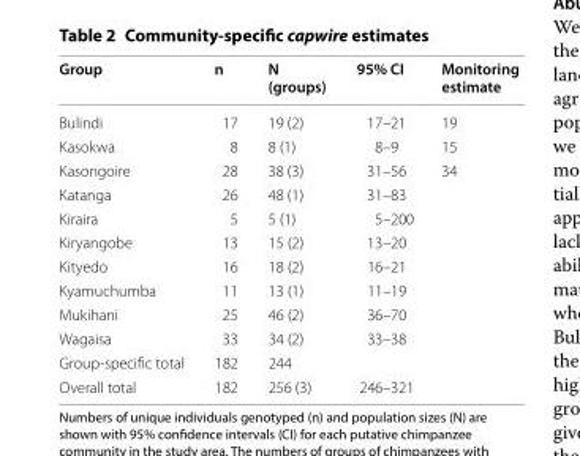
<table><thead><tr><td>Group</td><td>n</td><td>N (groups)</td><td>95% CI</td><td>Monitoring estimate</td></tr></thead><tbody><tr><td>Bulindi</td><td>17</td><td>19 (2)</td><td>17–21</td><td>19</td></tr><tr><td>Kasokwa</td><td>8</td><td>8 (1)</td><td>8–9</td><td>15</td></tr><tr><td>Kasongoire</td><td>28</td><td>38 (3)</td><td>31–56</td><td>34</td></tr><tr><td>Katanga</td><td>26</td><td>48 (1)</td><td>31–83</td><td></td></tr><tr><td>Kiraira</td><td>5</td><td>5 (1)</td><td>5–200</td><td></td></tr><tr><td>Kiryangobe</td><td>13</td><td>15 (2)</td><td>13–20</td><td></td></tr><tr><td>Kityedo</td><td>16</td><td>18 (2)</td><td>16–21</td><td></td></tr><tr><td>Kyamuchumba</td><td>11</td><td>13 (1)</td><td>11–19</td><td></td></tr><tr><td>Mukihani</td><td>25</td><td>46 (2)</td><td>36–70</td><td></td></tr><tr><td>Wagaisa</td><td>33</td><td>34 (2)</td><td>33–38</td><td></td></tr><tr><td>Group-specific total</td><td>182</td><td>244</td><td></td><td></td></tr><tr><td>Overall total</td><td>182</td><td>256 (3)</td><td>246–321</td><td></td></tr></tbody></table>